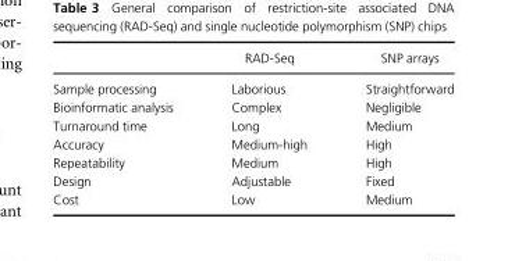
<table><thead><tr><td></td><td>RAD-Seq</td><td>SNP arrays</td></tr></thead><tbody><tr><td>Sample processing</td><td>Laborious</td><td>Straightforward</td></tr><tr><td>Bioinformatic analysis</td><td>Complex</td><td>Negligible</td></tr><tr><td>Turnaround time</td><td>Long</td><td>Medium</td></tr><tr><td>Accuracy</td><td>Medium-high</td><td>High</td></tr><tr><td>Repeatability</td><td>Medium</td><td>High</td></tr><tr><td>Design</td><td>Adjustable</td><td>Fixed</td></tr><tr><td>Cost</td><td>Low</td><td>Medium</td></tr></tbody></table>